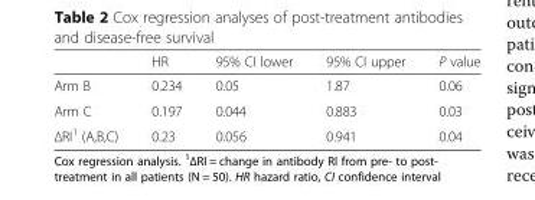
<table><thead><tr><td></td><td>HR</td><td>95% CI lower</td><td>95% CI upper</td><td>P value</td></tr></thead><tbody><tr><td>Arm B</td><td>0.234</td><td>0.05</td><td>1.87</td><td>0.06</td></tr><tr><td>Arm C</td><td>0.197</td><td>0.044</td><td>0.883</td><td>0.03</td></tr><tr><td>ΔRI1 (A,B,C)</td><td>0.23</td><td>0.056</td><td>0.941</td><td>0.04</td></tr></tbody></table>